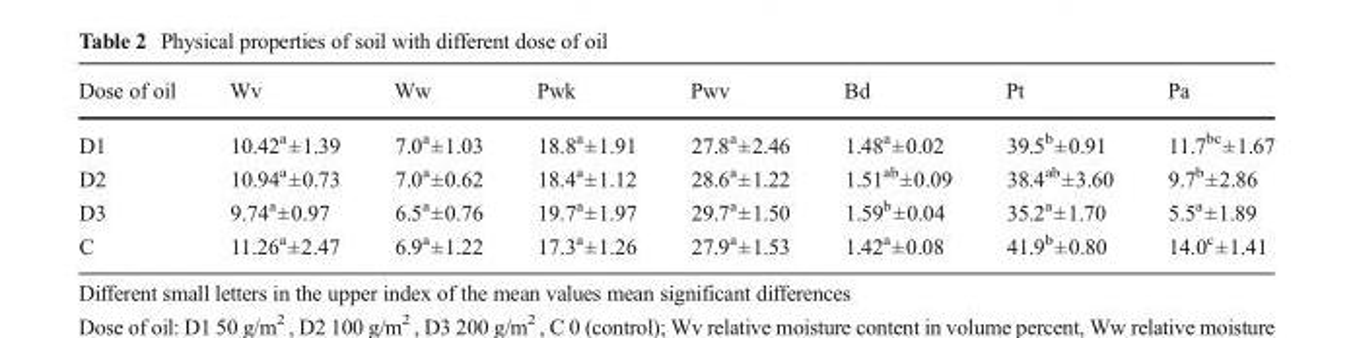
<table><thead><tr><td>Dose of oil</td><td>Wv</td><td>Ww</td><td>Pwk</td><td>Pwv</td><td>Bd</td><td>Pt</td><td>Pa</td></tr></thead><tbody><tr><td>D1</td><td>10.42<sup>a</sup>±1.39</td><td>7.0<sup>a</sup>±1.03</td><td>18.8<sup>a</sup>±1.91</td><td>27.8<sup>a</sup>±2.46</td><td>1.48<sup>a</sup>±0.02</td><td>39.5<sup>b</sup>±0.91</td><td>11.7<sup>bc</sup>±1.67</td></tr><tr><td>D2</td><td>10.94<sup>a</sup>±0.73</td><td>7.0<sup>a</sup>±0.62</td><td>18.4<sup>a</sup>±1.12</td><td>28.6<sup>a</sup>±1.22</td><td>1.51<sup>ab</sup>±0.09</td><td>38.4<sup>ab</sup>±3.60</td><td>9.7<sup>b</sup>±2.86</td></tr><tr><td>D3</td><td>9.74<sup>a</sup>±0.97</td><td>6.5<sup>a</sup>±0.76</td><td>19.7<sup>a</sup>±1.97</td><td>29.7<sup>a</sup>±1.50</td><td>1.59<sup>b</sup>±0.04</td><td>35.2<sup>a</sup>±1.70</td><td>5.5<sup>a</sup>±1.89</td></tr><tr><td>C</td><td>11.26<sup>a</sup>±2.47</td><td>6.9<sup>a</sup>±1.22</td><td>17.3<sup>a</sup>±1.26</td><td>27.9<sup>a</sup>±1.53</td><td>1.42<sup>a</sup>±0.08</td><td>41.9<sup>b</sup>±0.80</td><td>14.0<sup>c</sup>±1.41</td></tr></tbody></table>